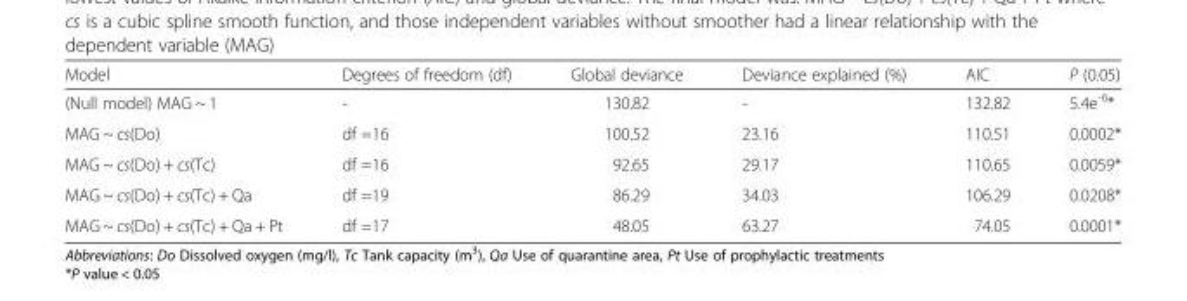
<table><thead><tr><td>Model</td><td>Degrees of freedom (df)</td><td>Global deviance</td><td>Deviance explained (%)</td><td>AIC</td><td>P (0.05)</td></tr></thead><tbody><tr><td>(Null model) MAG ~ 1</td><td>-</td><td>130.82</td><td>-</td><td>132.82</td><td>5.4e<sup>-6</sup>*</td></tr><tr><td>MAG ~ cs(Do)</td><td>df =16</td><td>100.52</td><td>23.16</td><td>110.51</td><td>0.0002*</td></tr><tr><td>MAG ~ cs(Do) + cs(Tc)</td><td>df =16</td><td>92.65</td><td>29.17</td><td>110.65</td><td>0.0059*</td></tr><tr><td>MAG ~ cs(Do) + cs(Tc) + Qa</td><td>df =19</td><td>86.29</td><td>34.03</td><td>106.29</td><td>0.0208*</td></tr><tr><td>MAG ~ cs(Do) + cs(Tc) + Qa + Pt</td><td>df =17</td><td>48.05</td><td>63.27</td><td>74.05</td><td>0.0001*</td></tr></tbody></table>